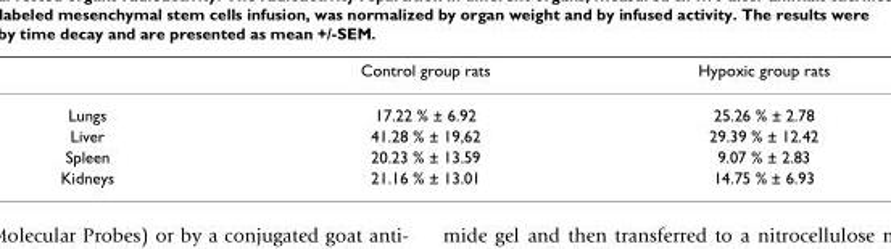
<table><thead><tr><td></td><td>Control group rats</td><td>Hypoxic group rats</td></tr></thead><tbody><tr><td>Lungs</td><td>17.22 % ± 6.92</td><td>25.26 % ± 2.78</td></tr><tr><td>Liver</td><td>41.28 % ± 19,62</td><td>29.39 % ± 12.42</td></tr><tr><td>Spleen</td><td>20.23 % ± 13.59</td><td>9.07 % ± 2.83</td></tr><tr><td>Kidneys</td><td>21.16 % ± 13.01</td><td>14.75 % ± 6.93</td></tr></tbody></table>